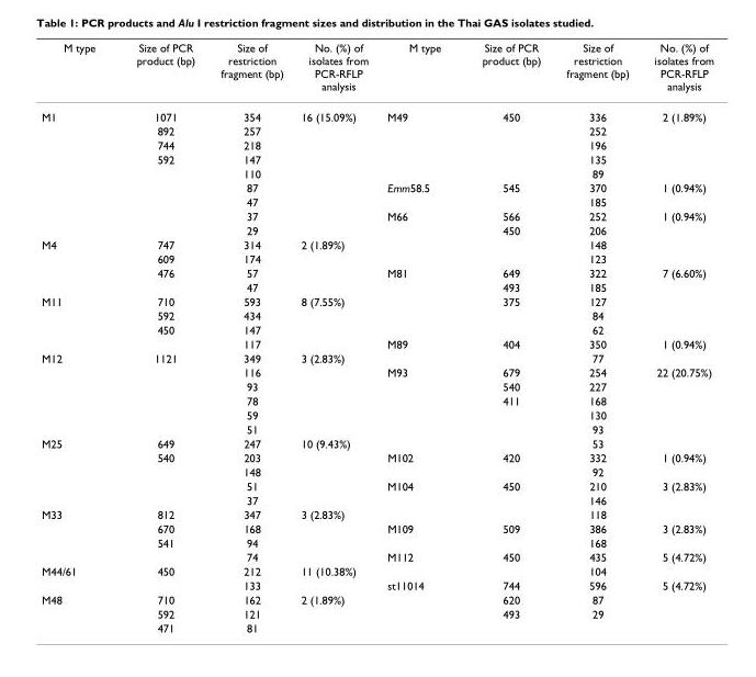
<table><thead><tr><td>M type</td><td>Size of PCR product (bp)</td><td>Size of restriction fragment (bp)</td><td>No. (%) of isolates from PCR-RFLP analysis</td><td>M type</td><td>Size of PCR product (bp)</td><td>Size of restriction fragment (bp)</td><td>No. (%) of isolates from PCR-RFLP analysis</td></tr></thead><tbody><tr><td rowspan="9">M1</td><td>1071</td><td>354</td><td>16 (15.09%)</td><td>M49</td><td>450</td><td>336</td><td>2 (1.89%)</td></tr><tr><td>892</td><td>257</td><td></td><td></td><td></td><td>252</td><td></td></tr><tr><td>744</td><td>218</td><td></td><td></td><td></td><td>196</td><td></td></tr><tr><td>592</td><td>147</td><td></td><td></td><td></td><td>135</td><td></td></tr><tr><td></td><td>110</td><td></td><td></td><td></td><td>89</td><td></td></tr><tr><td></td><td>87</td><td></td><td>Emm58.5</td><td>545</td><td>370</td><td>1 (0.94%)</td></tr><tr><td></td><td>47</td><td></td><td></td><td></td><td>185</td><td></td></tr><tr><td></td><td>37</td><td></td><td>M66</td><td>566</td><td>252</td><td>1 (0.94%)</td></tr><tr><td></td><td>29</td><td></td><td></td><td>450</td><td>206</td><td></td></tr><tr><td rowspan="4">M4</td><td>747</td><td>314</td><td>2 (1.89%)</td><td></td><td></td><td>148</td><td></td></tr><tr><td>609</td><td>174</td><td></td><td></td><td></td><td>123</td><td></td></tr><tr><td>476</td><td>57</td><td></td><td>M81</td><td>649</td><td>322</td><td>7 (6.60%)</td></tr><tr><td></td><td>47</td><td></td><td></td><td>493</td><td>185</td><td></td></tr><tr><td rowspan="4">M11</td><td>710</td><td>593</td><td>8 (7.55%)</td><td></td><td>375</td><td>127</td><td></td></tr><tr><td>592</td><td>434</td><td></td><td></td><td></td><td>84</td><td></td></tr><tr><td>450</td><td>147</td><td></td><td></td><td></td><td>62</td><td></td></tr><tr><td></td><td>117</td><td></td><td>M89</td><td>404</td><td>350</td><td>1 (0.94%)</td></tr><tr><td rowspan="6">M12</td><td>1121</td><td>349</td><td>3 (2.83%)</td><td></td><td></td><td>77</td><td></td></tr><tr><td></td><td>116</td><td></td><td>M93</td><td>679</td><td>254</td><td>22 (20.75%)</td></tr><tr><td></td><td>93</td><td></td><td></td><td>540</td><td>227</td><td></td></tr><tr><td></td><td>78</td><td></td><td></td><td>411</td><td>168</td><td></td></tr><tr><td></td><td>59</td><td></td><td></td><td></td><td>130</td><td></td></tr><tr><td></td><td>51</td><td></td><td></td><td></td><td>93</td><td></td></tr><tr><td rowspan="5">M25</td><td>649</td><td>247</td><td>10 (9.43%)</td><td></td><td></td><td>53</td><td></td></tr><tr><td>540</td><td>203</td><td></td><td>M102</td><td>420</td><td>332</td><td>1 (0.94%)</td></tr><tr><td></td><td>148</td><td></td><td></td><td></td><td>92</td><td></td></tr><tr><td></td><td>51</td><td></td><td>M104</td><td>450</td><td>210</td><td>3 (2.83%)</td></tr><tr><td></td><td>37</td><td></td><td></td><td></td><td>146</td><td></td></tr><tr><td rowspan="4">M33</td><td>812</td><td>347</td><td>3 (2.83%)</td><td></td><td></td><td>118</td><td></td></tr><tr><td>670</td><td>168</td><td></td><td>M109</td><td>509</td><td>386</td><td>3 (2.83%)</td></tr><tr><td>541</td><td>94</td><td></td><td></td><td></td><td>168</td><td></td></tr><tr><td></td><td>74</td><td></td><td>M112</td><td>450</td><td>435</td><td>5 (4.72%)</td></tr><tr><td rowspan="2">M44/61</td><td>450</td><td>212</td><td>11 (10.38%)</td><td></td><td></td><td>104</td><td></td></tr><tr><td></td><td>133</td><td></td><td>st11014</td><td>744</td><td>596</td><td>5 (4.72%)</td></tr><tr><td rowspan="3">M48</td><td>710</td><td>162</td><td>2 (1.89%)</td><td></td><td>620</td><td>87</td><td></td></tr><tr><td>592</td><td>121</td><td></td><td></td><td>493</td><td>29</td><td></td></tr><tr><td>471</td><td>81</td><td></td><td></td><td></td><td></td><td></td></tr></tbody></table>